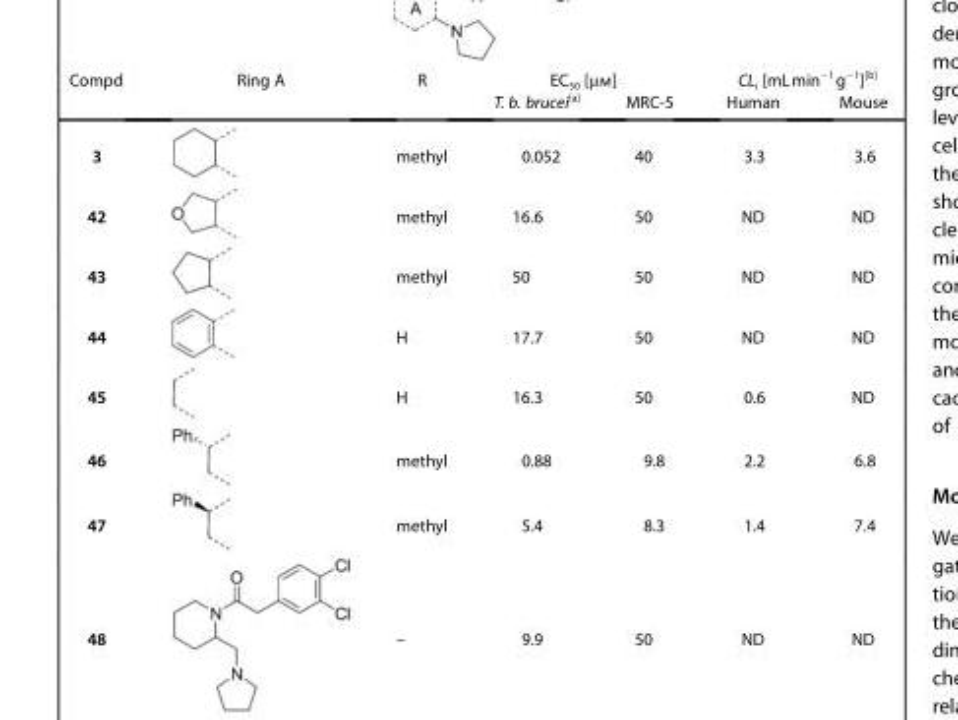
<table><thead><tr><td rowspan="2">Compd</td><td rowspan="2">Ring A</td><td rowspan="2">R</td><td colspan="2">EC<sub>50</sub> [μm]</td><td colspan="2">CL<sub>i</sub> [mLmin<sup>−1</sup>g<sup>−1</sup>][b]</td></tr><tr><td>T. b. brucei[a]</td><td>MRC-5</td><td>Human</td><td>Mouse</td></tr></thead><tbody><tr><td>3</td><td></td><td>methyl</td><td>0.052</td><td>40</td><td>3.3</td><td>3.6</td></tr><tr><td>42</td><td></td><td>methyl</td><td>16.6</td><td>50</td><td>ND</td><td>ND</td></tr><tr><td>43</td><td></td><td>methyl</td><td>50</td><td>50</td><td>ND</td><td>ND</td></tr><tr><td>44</td><td></td><td>H</td><td>17.7</td><td>50</td><td>ND</td><td>ND</td></tr><tr><td>45</td><td></td><td>H</td><td>16.3</td><td>50</td><td>0.6</td><td>ND</td></tr><tr><td>46</td><td></td><td>methyl</td><td>0.88</td><td>9.8</td><td>2.2</td><td>6.8</td></tr><tr><td>47</td><td></td><td>methyl</td><td>5.4</td><td>8.3</td><td>1.4</td><td>7.4</td></tr><tr><td>48</td><td></td><td>–</td><td>9.9</td><td>50</td><td>ND</td><td>ND</td></tr></tbody></table>